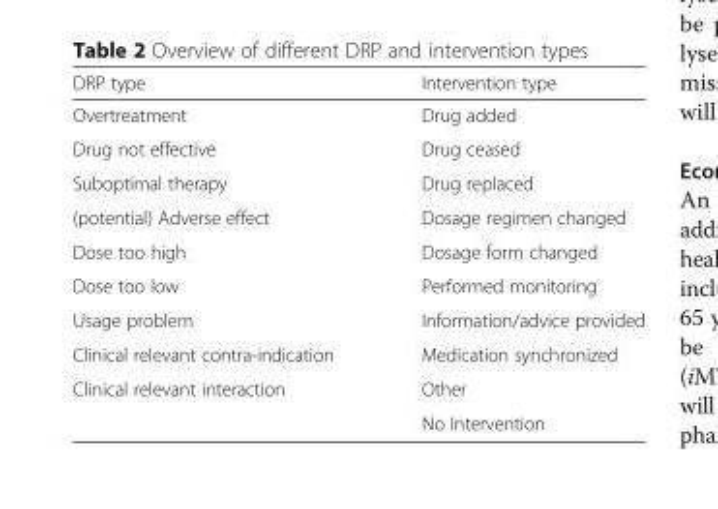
<table><thead><tr><td>DRP type</td><td>Intervention type</td></tr></thead><tbody><tr><td>Overtreatment</td><td>Drug added</td></tr><tr><td>Drug not effective</td><td>Drug ceased</td></tr><tr><td>Suboptimal therapy</td><td>Drug replaced</td></tr><tr><td>(potential) Adverse effect</td><td>Dosage regimen changed</td></tr><tr><td>Dose too high</td><td>Dosage form changed</td></tr><tr><td>Dose too low</td><td>Performed monitoring</td></tr><tr><td>Usage problem</td><td>Information/advice provided</td></tr><tr><td>Clinical relevant contra-indication</td><td>Medication synchronized</td></tr><tr><td rowspan="2">Clinical relevant interaction</td><td>Other</td></tr><tr><td>No Intervention</td></tr></tbody></table>